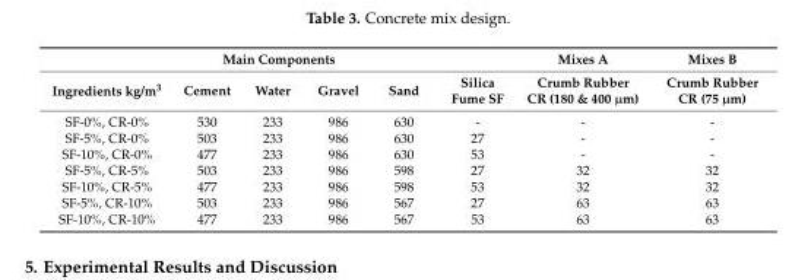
<table><thead><tr><td colspan="6">Main Components</td><td rowspan="2">Mixes A Crumb Rubber CR (180 &amp; 400 µm)</td><td rowspan="2">Mixes B Crumb Rubber CR (75 µm)</td></tr><tr><td>Ingredients kg/m<sup>3</sup></td><td>Cement</td><td>Water</td><td>Gravel</td><td>Sand</td><td>Silica Fume SF</td></tr></thead><tbody><tr><td>SF-0%, CR-0%</td><td>530</td><td>233</td><td>986</td><td>630</td><td>-</td><td>-</td><td>-</td></tr><tr><td>SF-5%, CR-0%</td><td>503</td><td>233</td><td>986</td><td>630</td><td>27</td><td>-</td><td>-</td></tr><tr><td>SF-10%, CR-0%</td><td>477</td><td>233</td><td>986</td><td>630</td><td>53</td><td>-</td><td>-</td></tr><tr><td>SF-5%, CR-5%</td><td>503</td><td>233</td><td>986</td><td>598</td><td>27</td><td>32</td><td>32</td></tr><tr><td>SF-10%, CR-5%</td><td>477</td><td>233</td><td>986</td><td>598</td><td>53</td><td>32</td><td>32</td></tr><tr><td>SF-5%, CR-10%</td><td>503</td><td>233</td><td>986</td><td>567</td><td>27</td><td>63</td><td>63</td></tr><tr><td>SF-10%, CR-10%</td><td>477</td><td>233</td><td>986</td><td>567</td><td>53</td><td>63</td><td>63</td></tr></tbody></table>